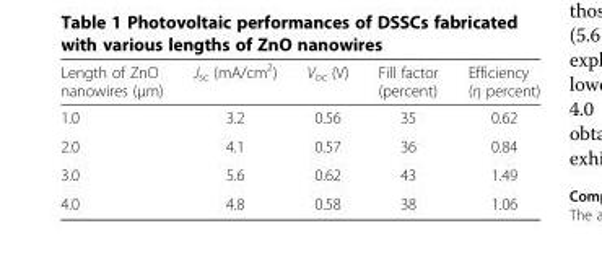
<table><thead><tr><td>Length of ZnO nanowires (μm)</td><td>J<sub>sc</sub> (mA/cm<sup>2</sup>)</td><td>V<sub>oc</sub> (V)</td><td>Fill factor (percent)</td><td>Efficiency (η percent)</td></tr></thead><tbody><tr><td>1.0</td><td>3.2</td><td>0.56</td><td>35</td><td>0.62</td></tr><tr><td>2.0</td><td>4.1</td><td>0.57</td><td>36</td><td>0.84</td></tr><tr><td>3.0</td><td>5.6</td><td>0.62</td><td>43</td><td>1.49</td></tr><tr><td>4.0</td><td>4.8</td><td>0.58</td><td>38</td><td>1.06</td></tr></tbody></table>